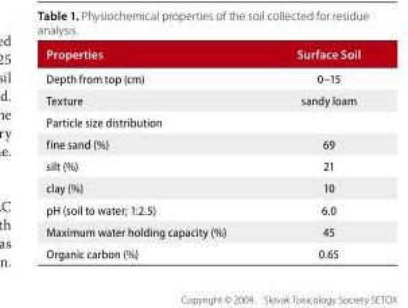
<table><thead><tr><td>Properties</td><td>Surface Soil</td></tr></thead><tbody><tr><td>Depth from top (cm)</td><td>0–15</td></tr><tr><td>Texture</td><td>sandy loam</td></tr><tr><td colspan="2">Particle size distribution</td></tr><tr><td>fine sand (%)</td><td>69</td></tr><tr><td>silt (%)</td><td>21</td></tr><tr><td>clay (%)</td><td>10</td></tr><tr><td>pH (soil to water; 1:2.5)</td><td>6.0</td></tr><tr><td>Maximum water holding capacity (%)</td><td>45</td></tr><tr><td>Organic carbon (%)</td><td>0.65</td></tr></tbody></table>